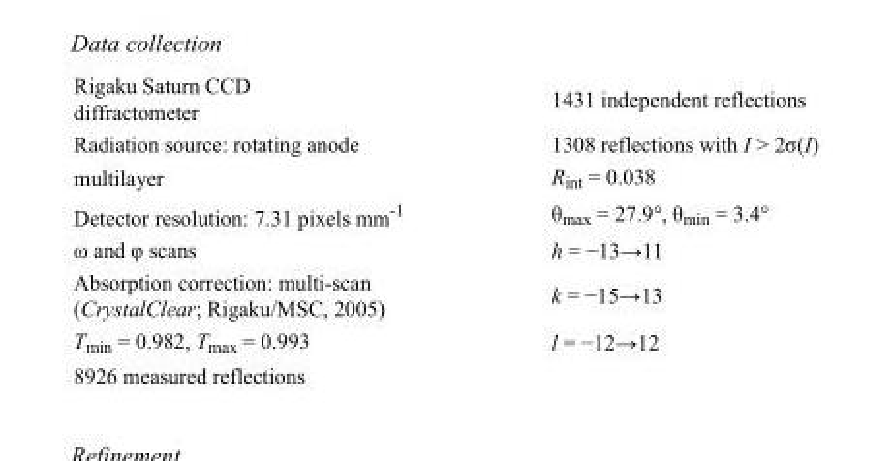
<table><tbody><tr><td>Rigaku Saturn CCD diffractometer</td><td>1431 independent reflections</td></tr><tr><td>Radiation source: rotating anode</td><td>1308 reflections with I &gt; 2σ(I)</td></tr><tr><td>multilayer</td><td>R<sub>int</sub> = 0.038</td></tr><tr><td>Detector resolution: 7.31 pixels mm<sup>-1</sup></td><td>θ<sub>max</sub> = 27.9°, θ<sub>min</sub> = 3.4°</td></tr><tr><td>ω and φ scans</td><td>h = −13→11</td></tr><tr><td>Absorption correction: multi-scan (CrystalClear; Rigaku/MSC, 2005)</td><td>k = −15→13</td></tr><tr><td>T<sub>min</sub> = 0.982, T<sub>max</sub> = 0.993</td><td>l = −12→12</td></tr><tr><td>8926 measured reflections</td><td></td></tr></tbody></table>